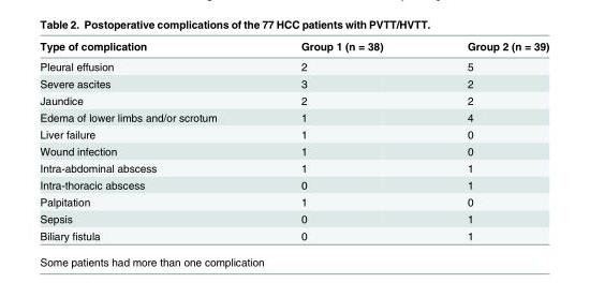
<table><thead><tr><td>Type of complication</td><td>Group 1 (n = 38)</td><td>Group 2 (n = 39)</td></tr></thead><tbody><tr><td>Pleural effusion</td><td>2</td><td>5</td></tr><tr><td>Severe ascites</td><td>3</td><td>2</td></tr><tr><td>Jaundice</td><td>2</td><td>2</td></tr><tr><td>Edema of lower limbs and/or scrotum</td><td>1</td><td>4</td></tr><tr><td>Liver failure</td><td>1</td><td>0</td></tr><tr><td>Wound infection</td><td>1</td><td>0</td></tr><tr><td>Intra-abdominal abscess</td><td>1</td><td>1</td></tr><tr><td>Intra-thoracic abscess</td><td>0</td><td>1</td></tr><tr><td>Palpitation</td><td>1</td><td>0</td></tr><tr><td>Sepsis</td><td>0</td><td>1</td></tr><tr><td>Biliary fistula</td><td>0</td><td>1</td></tr></tbody></table>